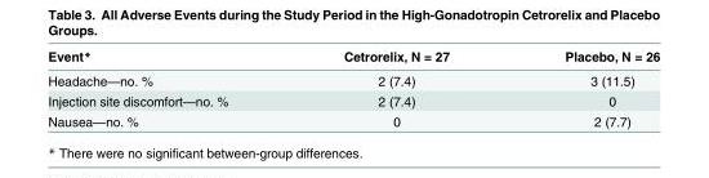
<table><thead><tr><td>Event*</td><td>Cetrorelix, N = 27</td><td>Placebo, N = 26</td></tr></thead><tbody><tr><td>Headache—no. %</td><td>2 (7.4)</td><td>3 (11.5)</td></tr><tr><td>Injection site discomfort—no. %</td><td>2 (7.4)</td><td>0</td></tr><tr><td>Nausea—no. %</td><td>0</td><td>2 (7.7)</td></tr></tbody></table>